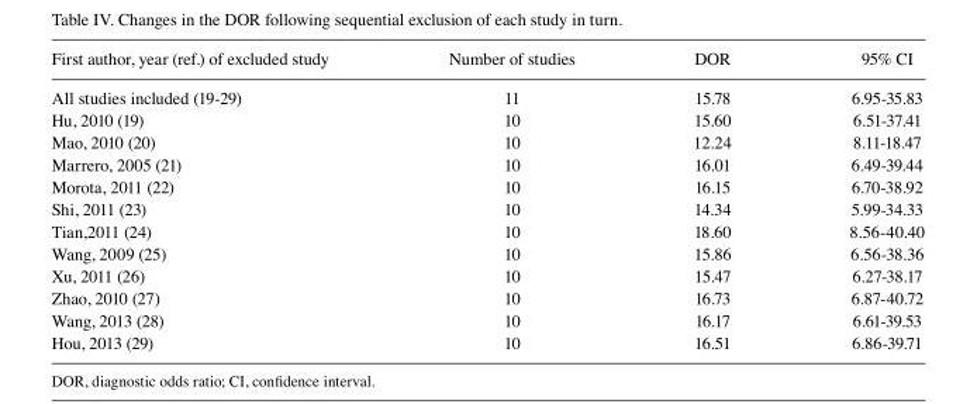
<table><thead><tr><td>First author, year (ref.) of excluded study</td><td>Number of studies</td><td>DOR</td><td>95% CI</td></tr></thead><tbody><tr><td>All studies included (19-29)</td><td>11</td><td>15.78</td><td>6.95-35.83</td></tr><tr><td>Hu, 2010 (19)</td><td>10</td><td>15.60</td><td>6.51-37.41</td></tr><tr><td>Mao, 2010 (20)</td><td>10</td><td>12.24</td><td>8.11-18.47</td></tr><tr><td>Marrero, 2005 (21)</td><td>10</td><td>16.01</td><td>6.49-39.44</td></tr><tr><td>Morota, 2011 (22)</td><td>10</td><td>16.15</td><td>6.70-38.92</td></tr><tr><td>Shi, 2011 (23)</td><td>10</td><td>14.34</td><td>5.99-34.33</td></tr><tr><td>Tian,2011 (24)</td><td>10</td><td>18.60</td><td>8.56-40.40</td></tr><tr><td>Wang, 2009 (25)</td><td>10</td><td>15.86</td><td>6.56-38.36</td></tr><tr><td>Xu, 2011 (26)</td><td>10</td><td>15.47</td><td>6.27-38.17</td></tr><tr><td>Zhao, 2010 (27)</td><td>10</td><td>16.73</td><td>6.87-40.72</td></tr><tr><td>Wang, 2013 (28)</td><td>10</td><td>16.17</td><td>6.61-39.53</td></tr><tr><td>Hou, 2013 (29)</td><td>10</td><td>16.51</td><td>6.86-39.71</td></tr></tbody></table>